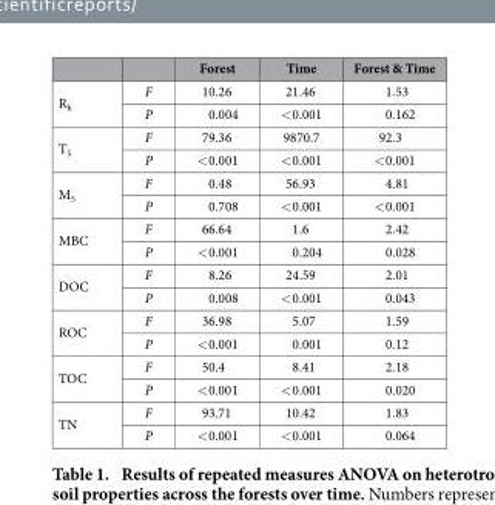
<table><thead><tr><td></td><td></td><td>Forest</td><td>Time</td><td>Forest &amp; Time</td></tr></thead><tbody><tr><td rowspan="2">R<sub>h</sub></td><td>F</td><td>10.26</td><td>21.46</td><td>1.53</td></tr><tr><td>P</td><td>0.004</td><td>&lt; 0.001</td><td>0.162</td></tr><tr><td rowspan="2">T<sub>5</sub></td><td>F</td><td>79.36</td><td>9870.7</td><td>92.3</td></tr><tr><td>P</td><td>&lt; 0.001</td><td>&lt; 0.001</td><td>&lt; 0.001</td></tr><tr><td rowspan="2">M<sub>5</sub></td><td>F</td><td>0.48</td><td>56.93</td><td>4.81</td></tr><tr><td>P</td><td>0.708</td><td>&lt; 0.001</td><td>&lt; 0.001</td></tr><tr><td rowspan="2">MBC</td><td>F</td><td>66.64</td><td>1.6</td><td>2.42</td></tr><tr><td>P</td><td>&lt; 0.001</td><td>0.204</td><td>0.028</td></tr><tr><td rowspan="2">DOC</td><td>F</td><td>8.26</td><td>24.59</td><td>2.01</td></tr><tr><td>P</td><td>0.008</td><td>&lt; 0.001</td><td>0.043</td></tr><tr><td rowspan="2">ROC</td><td>F</td><td>36.98</td><td>5.07</td><td>1.59</td></tr><tr><td>P</td><td>&lt; 0.001</td><td>0.001</td><td>0.12</td></tr><tr><td rowspan="2">TOC</td><td>F</td><td>50.4</td><td>8.41</td><td>2.18</td></tr><tr><td>P</td><td>&lt; 0.001</td><td>&lt; 0.001</td><td>0.020</td></tr><tr><td rowspan="2">TN</td><td>F</td><td>93.71</td><td>10.42</td><td>1.83</td></tr><tr><td>P</td><td>&lt; 0.001</td><td>&lt; 0.001</td><td>0.064</td></tr></tbody></table>